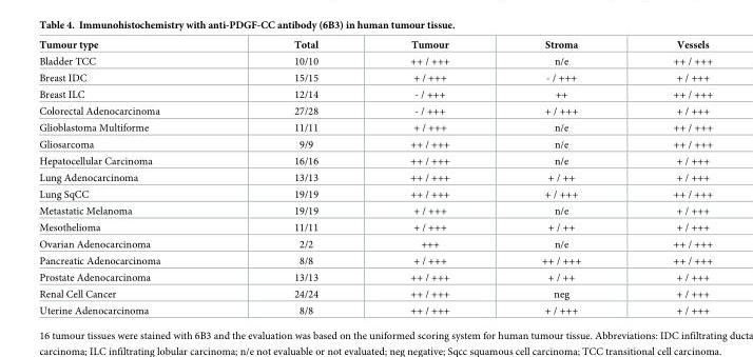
<table><thead><tr><td>Tumour type</td><td>Total</td><td>Tumour</td><td>Stroma</td><td>Vessels</td></tr></thead><tbody><tr><td>Bladder TCC</td><td>10/10</td><td>++ / +++</td><td>n/e</td><td>++ / +++</td></tr><tr><td>Breast IDC</td><td>15/15</td><td>+ / +++</td><td>- / +++</td><td>+ / +++</td></tr><tr><td>Breast ILC</td><td>12/14</td><td>- / +++</td><td>++</td><td>++ / +++</td></tr><tr><td>Colorectal Adenocarcinoma</td><td>27/28</td><td>- / +++</td><td>+ / +++</td><td>+ / +++</td></tr><tr><td>Glioblastoma Multiforme</td><td>11/11</td><td>+ / +++</td><td>n/e</td><td>++ / +++</td></tr><tr><td>Gliosarcoma</td><td>9/9</td><td>++ / +++</td><td>n/e</td><td>++ / +++</td></tr><tr><td>Hepatocellular Carcinoma</td><td>16/16</td><td>++ / +++</td><td>n/e</td><td>+ / +++</td></tr><tr><td>Lung Adenocarcinoma</td><td>13/13</td><td>++ / +++</td><td>+ / ++</td><td>+ / +++</td></tr><tr><td>Lung SqCC</td><td>19/19</td><td>++ / +++</td><td>+ / +++</td><td>++ / +++</td></tr><tr><td>Metastatic Melanoma</td><td>19/19</td><td>+ / +++</td><td>n/e</td><td>+ / +++</td></tr><tr><td>Mesothelioma</td><td>11/11</td><td>+ / +++</td><td>+ / ++</td><td>+ / +++</td></tr><tr><td>Ovarian Adenocarcinoma</td><td>2/2</td><td>+++</td><td>n/e</td><td>++ / +++</td></tr><tr><td>Pancreatic Adenocarcinoma</td><td>8/8</td><td>+ / +++</td><td>++ / +++</td><td>++ / +++</td></tr><tr><td>Prostate Adenocarcinoma</td><td>13/13</td><td>++ / +++</td><td>+ / ++</td><td>+ / +++</td></tr><tr><td>Renal Cell Cancer</td><td>24/24</td><td>++ / +++</td><td>neg</td><td>+ / +++</td></tr><tr><td>Uterine Adenocarcinoma</td><td>8/8</td><td>++ / +++</td><td>+ / +++</td><td>+ / +++</td></tr></tbody></table>